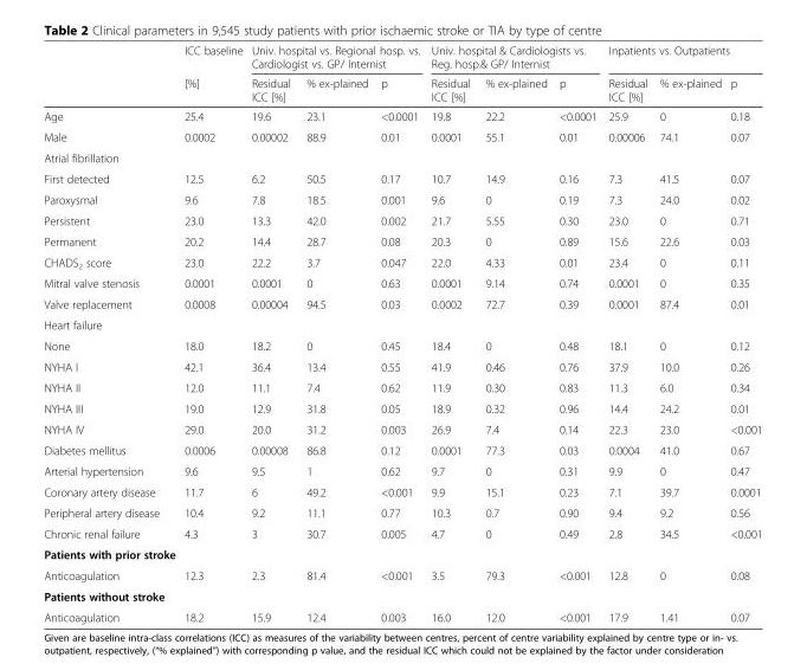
<table><thead><tr><td rowspan="2"></td><td rowspan="2">ICC baseline [%]</td><td colspan="3">Univ. hospital vs. Regional hosp. vs. Cardiologist vs. GP/ Internist</td><td colspan="3">Univ. hospital &amp; Cardiologists vs. Reg. hosp.&amp; GP/ Internist</td><td colspan="3">Inpatients vs. Outpatients</td></tr><tr><td>Residual ICC [%]</td><td>% ex-plained</td><td>p</td><td>Residual ICC [%]</td><td>% ex-plained</td><td>p</td><td>Residual ICC [%]</td><td>% ex-plained</td><td>p</td></tr></thead><tbody><tr><td>Age</td><td>25.4</td><td>19.6</td><td>23.1</td><td>&lt;0.0001</td><td>19.8</td><td>22.2</td><td>&lt;0.0001</td><td>25.9</td><td>0</td><td>0.18</td></tr><tr><td>Male</td><td>0.0002</td><td>0.00002</td><td>88.9</td><td>0.01</td><td>0.0001</td><td>55.1</td><td>0.01</td><td>0.00006</td><td>74.1</td><td>0.07</td></tr><tr><td colspan="11">Atrial fibrillation</td></tr><tr><td>First detected</td><td>12.5</td><td>6.2</td><td>50.5</td><td>0.17</td><td>10.7</td><td>14.9</td><td>0.16</td><td>7.3</td><td>41.5</td><td>0.07</td></tr><tr><td>Paroxysmal</td><td>9.6</td><td>7.8</td><td>18.5</td><td>0.001</td><td>9.6</td><td>0</td><td>0.19</td><td>7.3</td><td>24.0</td><td>0.02</td></tr><tr><td>Persistent</td><td>23.0</td><td>13.3</td><td>42.0</td><td>0.002</td><td>21.7</td><td>5.55</td><td>0.30</td><td>23.0</td><td>0</td><td>0.71</td></tr><tr><td>Permanent</td><td>20.2</td><td>14.4</td><td>28.7</td><td>0.08</td><td>20.3</td><td>0</td><td>0.89</td><td>15.6</td><td>22.6</td><td>0.03</td></tr><tr><td>CHADS<sub>2</sub> score</td><td>23.0</td><td>22.2</td><td>3.7</td><td>0.047</td><td>22.0</td><td>4.33</td><td>0.01</td><td>23.4</td><td>0</td><td>0.11</td></tr><tr><td>Mitral valve stenosis</td><td>0.0001</td><td>0.0001</td><td>0</td><td>0.63</td><td>0.0001</td><td>9.14</td><td>0.74</td><td>0.0001</td><td>0</td><td>0.35</td></tr><tr><td>Valve replacement</td><td>0.0008</td><td>0.00004</td><td>94.5</td><td>0.03</td><td>0.0002</td><td>72.7</td><td>0.39</td><td>0.0001</td><td>87.4</td><td>0.01</td></tr><tr><td colspan="11">Heart failure</td></tr><tr><td>None</td><td>18.0</td><td>18.2</td><td>0</td><td>0.45</td><td>18.4</td><td>0</td><td>0.48</td><td>18.1</td><td>0</td><td>0.12</td></tr><tr><td>NYHA I</td><td>42.1</td><td>36.4</td><td>13.4</td><td>0.55</td><td>41.9</td><td>0.46</td><td>0.76</td><td>37.9</td><td>10.0</td><td>0.26</td></tr><tr><td>NYHA II</td><td>12.0</td><td>11.1</td><td>7.4</td><td>0.62</td><td>11.9</td><td>0.30</td><td>0.83</td><td>11.3</td><td>6.0</td><td>0.34</td></tr><tr><td>NYHA III</td><td>19.0</td><td>12.9</td><td>31.8</td><td>0.05</td><td>18.9</td><td>0.32</td><td>0.96</td><td>14.4</td><td>24.2</td><td>0.01</td></tr><tr><td>NYHA IV</td><td>29.0</td><td>20.0</td><td>31.2</td><td>0.003</td><td>26.9</td><td>7.4</td><td>0.14</td><td>22.3</td><td>23.0</td><td>&lt;0.001</td></tr><tr><td>Diabetes mellitus</td><td>0.0006</td><td>0.00008</td><td>86.8</td><td>0.12</td><td>0.0001</td><td>77.3</td><td>0.03</td><td>0.0004</td><td>41.0</td><td>0.67</td></tr><tr><td>Arterial hypertension</td><td>9.6</td><td>9.5</td><td>1</td><td>0.62</td><td>9.7</td><td>0</td><td>0.31</td><td>9.9</td><td>0</td><td>0.47</td></tr><tr><td>Coronary artery disease</td><td>11.7</td><td>6</td><td>49.2</td><td>&lt;0.001</td><td>9.9</td><td>15.1</td><td>0.23</td><td>7.1</td><td>39.7</td><td>0.0001</td></tr><tr><td>Peripheral artery disease</td><td>10.4</td><td>9.2</td><td>11.1</td><td>0.77</td><td>10.3</td><td>0.7</td><td>0.90</td><td>9.4</td><td>9.2</td><td>0.56</td></tr><tr><td>Chronic renal failure</td><td>4.3</td><td>3</td><td>30.7</td><td>0.005</td><td>4.7</td><td>0</td><td>0.49</td><td>2.8</td><td>34.5</td><td>&lt;0.001</td></tr><tr><td colspan="11">Patients with prior stroke</td></tr><tr><td>Anticoagulation</td><td>12.3</td><td>2.3</td><td>81.4</td><td>&lt;0.001</td><td>3.5</td><td>79.3</td><td>&lt;0.001</td><td>12.8</td><td>0</td><td>0.08</td></tr><tr><td colspan="11">Patients without stroke</td></tr><tr><td>Anticoagulation</td><td>18.2</td><td>15.9</td><td>12.4</td><td>0.003</td><td>16.0</td><td>12.0</td><td>&lt;0.001</td><td>17.9</td><td>1.41</td><td>0.07</td></tr></tbody></table>